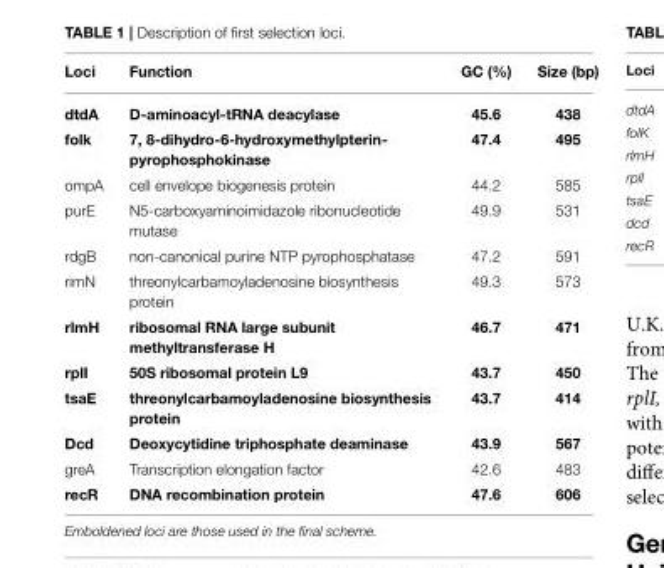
<table><thead><tr><td>Loci</td><td>Function</td><td>GC (%)</td><td>Size (bp)</td></tr></thead><tbody><tr><td>dtdA</td><td>D-aminoacyl-tRNA deacylase</td><td>45.6</td><td>438</td></tr><tr><td>folk</td><td>7, 8-dihydro-6-hydroxymethylpterin- pyrophosphokinase</td><td>47.4</td><td>495</td></tr><tr><td>ompA</td><td>cell envelope biogenesis protein</td><td>44.2</td><td>585</td></tr><tr><td>purE</td><td>N5-carboxyaminoimidazole ribonucleotide mutase</td><td>49.9</td><td>531</td></tr><tr><td>rdgB</td><td>non-canonical purine NTP pyrophosphatase</td><td>47.2</td><td>591</td></tr><tr><td>rimN</td><td>threonylcarbamoyladenosine biosynthesis protein</td><td>49.3</td><td>573</td></tr><tr><td>rlmH</td><td>ribosomal RNA large subunit methyltransferase H</td><td>46.7</td><td>471</td></tr><tr><td>rplI</td><td>50S ribosomal protein L9</td><td>43.7</td><td>450</td></tr><tr><td>tsaE</td><td>threonylcarbamoyladenosine biosynthesis protein</td><td>43.7</td><td>414</td></tr><tr><td>Dcd</td><td>Deoxycytidine triphosphate deaminase</td><td>43.9</td><td>567</td></tr><tr><td>greA</td><td>Transcription elongation factor</td><td>42.6</td><td>483</td></tr><tr><td>recR</td><td>DNA recombination protein</td><td>47.6</td><td>606</td></tr></tbody></table>